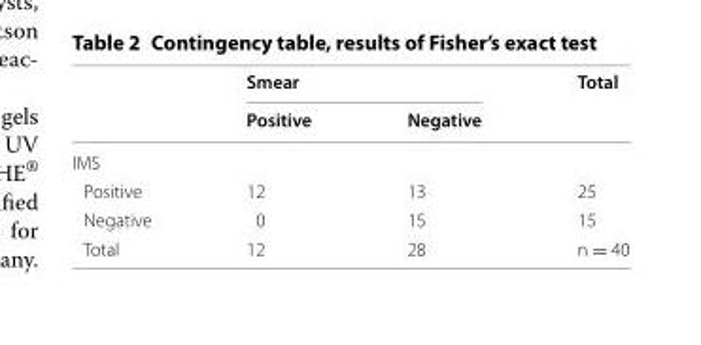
<table><thead><tr><td rowspan="2"></td><td colspan="2">Smear</td><td rowspan="2">Total</td></tr><tr><td>Positive</td><td>Negative</td></tr></thead><tbody><tr><td colspan="4">IMS</td></tr><tr><td>Positive</td><td>12</td><td>13</td><td>25</td></tr><tr><td>Negative</td><td>0</td><td>15</td><td>15</td></tr><tr><td>Total</td><td>12</td><td>28</td><td>n = 40</td></tr></tbody></table>